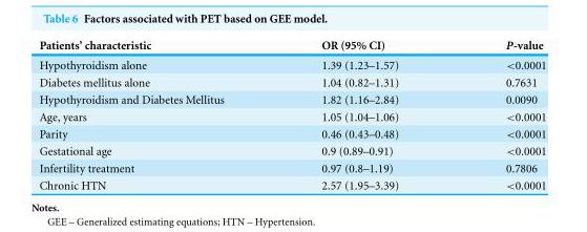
<table><thead><tr><td>Patients’ characteristic</td><td>OR (95% CI)</td><td>P-value</td></tr></thead><tbody><tr><td>Hypothyroidism alone</td><td>1.39 (1.23–1.57)</td><td>&lt;0.0001</td></tr><tr><td>Diabetes mellitus alone</td><td>1.04 (0.82–1.31)</td><td>0.7631</td></tr><tr><td>Hypothyroidism and Diabetes Mellitus</td><td>1.82 (1.16–2.84)</td><td>0.0090</td></tr><tr><td>Age, years</td><td>1.05 (1.04–1.06)</td><td>&lt;0.0001</td></tr><tr><td>Parity</td><td>0.46 (0.43–0.48)</td><td>&lt;0.0001</td></tr><tr><td>Gestational age</td><td>0.9 (0.89–0.91)</td><td>&lt;0.0001</td></tr><tr><td>Infertility treatment</td><td>0.97 (0.8–1.19)</td><td>0.7806</td></tr><tr><td>Chronic HTN</td><td>2.57 (1.95–3.39)</td><td>&lt;0.0001</td></tr></tbody></table>